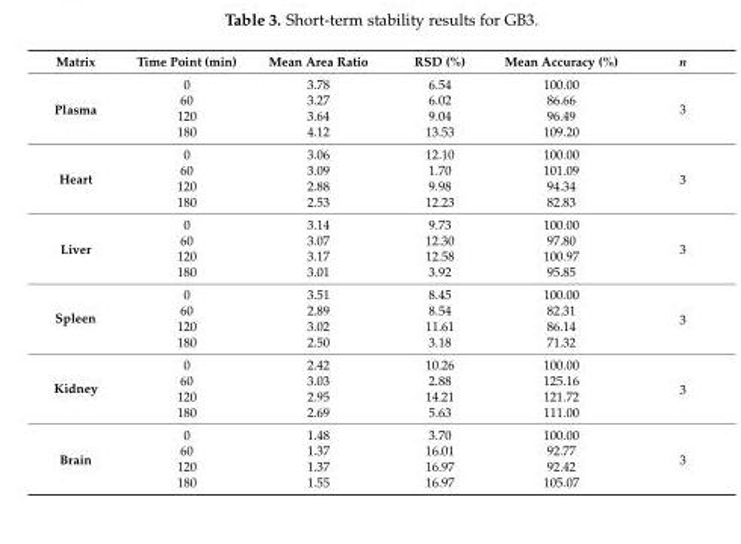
<table><thead><tr><td>Matrix</td><td>Time Point (min)</td><td>Mean Area Ratio</td><td>RSD (%)</td><td>Mean Accuracy (%)</td><td>n</td></tr></thead><tbody><tr><td rowspan="4">Plasma</td><td>0</td><td>3.78</td><td>6.54</td><td>100.00</td><td rowspan="4">3</td></tr><tr><td>60</td><td>3.27</td><td>6.02</td><td>86.66</td></tr><tr><td>120</td><td>3.64</td><td>9.04</td><td>96.49</td></tr><tr><td>180</td><td>4.12</td><td>13.53</td><td>109.20</td></tr><tr><td rowspan="4">Heart</td><td>0</td><td>3.06</td><td>12.10</td><td>100.00</td><td rowspan="4">3</td></tr><tr><td>60</td><td>3.09</td><td>1.70</td><td>101.09</td></tr><tr><td>120</td><td>2.88</td><td>9.98</td><td>94.34</td></tr><tr><td>180</td><td>2.53</td><td>12.23</td><td>82.83</td></tr><tr><td rowspan="4">Liver</td><td>0</td><td>3.14</td><td>9.73</td><td>100.00</td><td rowspan="4">3</td></tr><tr><td>60</td><td>3.07</td><td>12.30</td><td>97.80</td></tr><tr><td>120</td><td>3.17</td><td>12.58</td><td>100.97</td></tr><tr><td>180</td><td>3.01</td><td>3.92</td><td>95.85</td></tr><tr><td rowspan="4">Spleen</td><td>0</td><td>3.51</td><td>8.45</td><td>100.00</td><td rowspan="4">3</td></tr><tr><td>60</td><td>2.89</td><td>8.54</td><td>82.31</td></tr><tr><td>120</td><td>3.02</td><td>11.61</td><td>86.14</td></tr><tr><td>180</td><td>2.50</td><td>3.18</td><td>71.32</td></tr><tr><td rowspan="4">Kidney</td><td>0</td><td>2.42</td><td>10.26</td><td>100.00</td><td rowspan="4">3</td></tr><tr><td>60</td><td>3.03</td><td>2.88</td><td>125.16</td></tr><tr><td>120</td><td>2.95</td><td>14.21</td><td>121.72</td></tr><tr><td>180</td><td>2.69</td><td>5.63</td><td>111.00</td></tr><tr><td rowspan="4">Brain</td><td>0</td><td>1.48</td><td>3.70</td><td>100.00</td><td rowspan="4">3</td></tr><tr><td>60</td><td>1.37</td><td>16.01</td><td>92.77</td></tr><tr><td>120</td><td>1.37</td><td>16.97</td><td>92.42</td></tr><tr><td>180</td><td>1.55</td><td>16.97</td><td>105.07</td></tr></tbody></table>